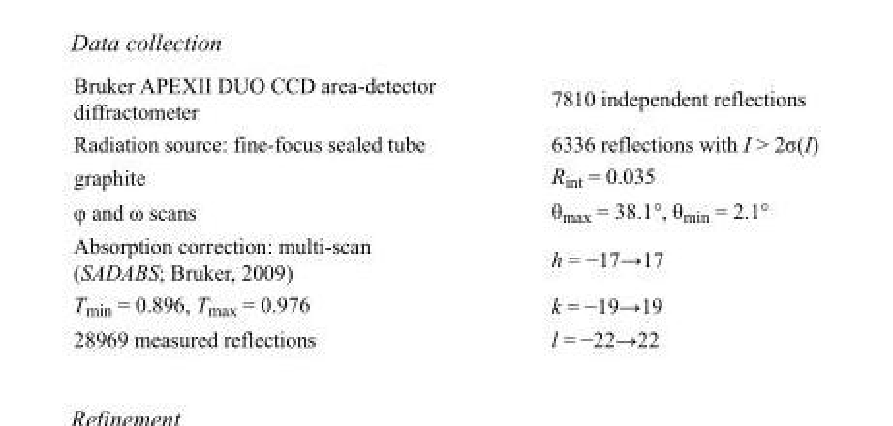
<table><tbody><tr><td>Bruker APEXII DUO CCD area-detector diffractometer</td><td>7810 independent reflections</td></tr><tr><td>Radiation source: fine-focus sealed tube</td><td>6336 reflections with I &gt; 2σ(I)</td></tr><tr><td>graphite</td><td>R<sub>int</sub> = 0.035</td></tr><tr><td>φ and ω scans</td><td>θ<sub>max</sub> = 38.1°, θ<sub>min</sub> = 2.1°</td></tr><tr><td>Absorption correction: multi-scan (SADABS; Bruker, 2009)</td><td>h = −17→17</td></tr><tr><td>T<sub>min</sub> = 0.896, T<sub>max</sub> = 0.976</td><td>k = −19→19</td></tr><tr><td>28969 measured reflections</td><td>l = −22→22</td></tr></tbody></table>